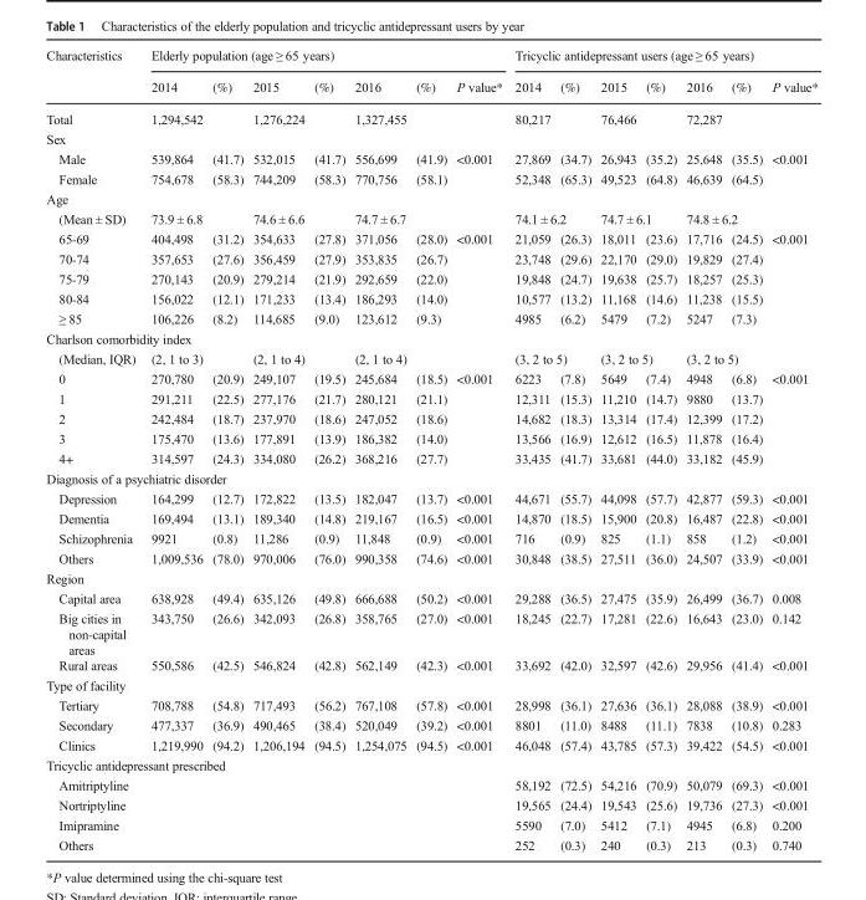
<table><thead><tr><td rowspan="2">Characteristics</td><td colspan="7">Elderly population (age ≥ 65 years)</td><td colspan="7">Tricyclic antidepressant users (age ≥ 65 years)</td></tr><tr><td>2014</td><td>(%)</td><td>2015</td><td>(%)</td><td>2016</td><td>(%)</td><td>P value*</td><td>2014</td><td>(%)</td><td>2015</td><td>(%)</td><td>2016</td><td>(%)</td><td>P value*</td></tr></thead><tbody><tr><td>Total</td><td colspan="2">1,294,542</td><td colspan="2">1,276,224</td><td colspan="2">1,327,455</td><td></td><td colspan="2">80,217</td><td colspan="2">76,466</td><td colspan="2">72,287</td><td></td></tr><tr><td colspan="15">Sex</td></tr><tr><td>Male</td><td>539,864</td><td>(41.7)</td><td>532,015</td><td>(41.7)</td><td>556,699</td><td>(41.9)</td><td>&lt;0.001</td><td>27,869</td><td>(34.7)</td><td>26,943</td><td>(35.2)</td><td>25,648</td><td>(35.5)</td><td>&lt;0.001</td></tr><tr><td>Female</td><td>754,678</td><td>(58.3)</td><td>744,209</td><td>(58.3)</td><td>770,756</td><td>(58.1)</td><td></td><td>52,348</td><td>(65.3)</td><td>49,523</td><td>(64.8)</td><td>46,639</td><td>(64.5)</td><td></td></tr><tr><td colspan="15">Age</td></tr><tr><td>(Mean ± SD)</td><td colspan="2">73.9 ± 6.8</td><td colspan="2">74.6 ± 6.6</td><td colspan="2">74.7 ± 6.7</td><td></td><td colspan="2">74.1 ± 6.2</td><td colspan="2">74.7 ± 6.1</td><td colspan="2">74.8 ± 6.2</td><td></td></tr><tr><td>65-69</td><td>404,498</td><td>(31.2)</td><td>354,633</td><td>(27.8)</td><td>371,056</td><td>(28.0)</td><td>&lt;0.001</td><td>21,059</td><td>(26.3)</td><td>18,011</td><td>(23.6)</td><td>17,716</td><td>(24.5)</td><td>&lt;0.001</td></tr><tr><td>70-74</td><td>357,653</td><td>(27.6)</td><td>356,459</td><td>(27.9)</td><td>353,835</td><td>(26.7)</td><td></td><td>23,748</td><td>(29.6)</td><td>22,170</td><td>(29.0)</td><td>19,829</td><td>(27.4)</td><td></td></tr><tr><td>75-79</td><td>270,143</td><td>(20.9)</td><td>279,214</td><td>(21.9)</td><td>292,659</td><td>(22.0)</td><td></td><td>19,848</td><td>(24.7)</td><td>19,638</td><td>(25.7)</td><td>18,257</td><td>(25.3)</td><td></td></tr><tr><td>80-84</td><td>156,022</td><td>(12.1)</td><td>171,233</td><td>(13.4)</td><td>186,293</td><td>(14.0)</td><td></td><td>10,577</td><td>(13.2)</td><td>11,168</td><td>(14.6)</td><td>11,238</td><td>(15.5)</td><td></td></tr><tr><td>≥ 85</td><td>106,226</td><td>(8.2)</td><td>114,685</td><td>(9.0)</td><td>123,612</td><td>(9.3)</td><td></td><td>4985</td><td>(6.2)</td><td>5479</td><td>(7.2)</td><td>5247</td><td>(7.3)</td><td></td></tr><tr><td colspan="15">Charlson comorbidity index</td></tr><tr><td>(Median, IQR)</td><td colspan="2">(2, 1 to 3)</td><td colspan="2">(2, 1 to 4)</td><td colspan="2">(2, 1 to 4)</td><td></td><td colspan="2">(3, 2 to 5)</td><td colspan="2">(3, 2 to 5)</td><td colspan="2">(3, 2 to 5)</td><td></td></tr><tr><td>0</td><td>270,780</td><td>(20.9)</td><td>249,107</td><td>(19.5)</td><td>245,684</td><td>(18.5)</td><td>&lt;0.001</td><td>6223</td><td>(7.8)</td><td>5649</td><td>(7.4)</td><td>4948</td><td>(6.8)</td><td>&lt;0.001</td></tr><tr><td>1</td><td>291,211</td><td>(22.5)</td><td>277,176</td><td>(21.7)</td><td>280,121</td><td>(21.1)</td><td></td><td>12,311</td><td>(15.3)</td><td>11,210</td><td>(14.7)</td><td>9880</td><td>(13.7)</td><td></td></tr><tr><td>2</td><td>242,484</td><td>(18.7)</td><td>237,970</td><td>(18.6)</td><td>247,052</td><td>(18.6)</td><td></td><td>14,682</td><td>(18.3)</td><td>13,314</td><td>(17.4)</td><td>12,399</td><td>(17.2)</td><td></td></tr><tr><td>3</td><td>175,470</td><td>(13.6)</td><td>177,891</td><td>(13.9)</td><td>186,382</td><td>(14.0)</td><td></td><td>13,566</td><td>(16.9)</td><td>12,612</td><td>(16.5)</td><td>11,878</td><td>(16.4)</td><td></td></tr><tr><td>4+</td><td>314,597</td><td>(24.3)</td><td>334,080</td><td>(26.2)</td><td>368,216</td><td>(27.7)</td><td></td><td>33,435</td><td>(41.7)</td><td>33,681</td><td>(44.0)</td><td>33,182</td><td>(45.9)</td><td></td></tr><tr><td colspan="15">Diagnosis of a psychiatric disorder</td></tr><tr><td>Depression</td><td>164,299</td><td>(12.7)</td><td>172,822</td><td>(13.5)</td><td>182,047</td><td>(13.7)</td><td>&lt;0.001</td><td>44,671</td><td>(55.7)</td><td>44,098</td><td>(57.7)</td><td>42,877</td><td>(59.3)</td><td>&lt;0.001</td></tr><tr><td>Dementia</td><td>169,494</td><td>(13.1)</td><td>189,340</td><td>(14.8)</td><td>219,167</td><td>(16.5)</td><td>&lt;0.001</td><td>14,870</td><td>(18.5)</td><td>15,900</td><td>(20.8)</td><td>16,487</td><td>(22.8)</td><td>&lt;0.001</td></tr><tr><td>Schizophrenia</td><td>9921</td><td>(0.8)</td><td>11,286</td><td>(0.9)</td><td>11,848</td><td>(0.9)</td><td>&lt;0.001</td><td>716</td><td>(0.9)</td><td>825</td><td>(1.1)</td><td>858</td><td>(1.2)</td><td>&lt;0.001</td></tr><tr><td>Others</td><td>1,009,536</td><td>(78.0)</td><td>970,006</td><td>(76.0)</td><td>990,358</td><td>(74.6)</td><td>&lt;0.001</td><td>30,848</td><td>(38.5)</td><td>27,511</td><td>(36.0)</td><td>24,507</td><td>(33.9)</td><td>&lt;0.001</td></tr><tr><td colspan="15">Region</td></tr><tr><td>Capital area</td><td>638,928</td><td>(49.4)</td><td>635,126</td><td>(49.8)</td><td>666,688</td><td>(50.2)</td><td>&lt;0.001</td><td>29,288</td><td>(36.5)</td><td>27,475</td><td>(35.9)</td><td>26,499</td><td>(36.7)</td><td>0.008</td></tr><tr><td>Big cities in non-capital areas</td><td>343,750</td><td>(26.6)</td><td>342,093</td><td>(26.8)</td><td>358,765</td><td>(27.0)</td><td>&lt;0.001</td><td>18,245</td><td>(22.7)</td><td>17,281</td><td>(22.6)</td><td>16,643</td><td>(23.0)</td><td>0.142</td></tr><tr><td>Rural areas</td><td>550,586</td><td>(42.5)</td><td>546,824</td><td>(42.8)</td><td>562,149</td><td>(42.3)</td><td>&lt;0.001</td><td>33,692</td><td>(42.0)</td><td>32,597</td><td>(42.6)</td><td>29,956</td><td>(41.4)</td><td>&lt;0.001</td></tr><tr><td colspan="15">Type of facility</td></tr><tr><td>Tertiary</td><td>708,788</td><td>(54.8)</td><td>717,493</td><td>(56.2)</td><td>767,108</td><td>(57.8)</td><td>&lt;0.001</td><td>28,998</td><td>(36.1)</td><td>27,636</td><td>(36.1)</td><td>28,088</td><td>(38.9)</td><td>&lt;0.001</td></tr><tr><td>Secondary</td><td>477,337</td><td>(36.9)</td><td>490,465</td><td>(38.4)</td><td>520,049</td><td>(39.2)</td><td>&lt;0.001</td><td>8801</td><td>(11.0)</td><td>8488</td><td>(11.1)</td><td>7838</td><td>(10.8)</td><td>0.283</td></tr><tr><td>Clinics</td><td>1,219,990</td><td>(94.2)</td><td>1,206,194</td><td>(94.5)</td><td>1,254,075</td><td>(94.5)</td><td>&lt;0.001</td><td>46,048</td><td>(57.4)</td><td>43,785</td><td>(57.3)</td><td>39,422</td><td>(54.5)</td><td>&lt;0.001</td></tr><tr><td colspan="15">Tricyclic antidepressant prescribed</td></tr><tr><td>Amitriptyline</td><td></td><td></td><td></td><td></td><td></td><td></td><td></td><td>58,192</td><td>(72.5)</td><td>54,216</td><td>(70.9)</td><td>50,079</td><td>(69.3)</td><td>&lt;0.001</td></tr><tr><td>Nortriptyline</td><td></td><td></td><td></td><td></td><td></td><td></td><td></td><td>19,565</td><td>(24.4)</td><td>19,543</td><td>(25.6)</td><td>19,736</td><td>(27.3)</td><td>&lt;0.001</td></tr><tr><td>Imipramine</td><td></td><td></td><td></td><td></td><td></td><td></td><td></td><td>5590</td><td>(7.0)</td><td>5412</td><td>(7.1)</td><td>4945</td><td>(6.8)</td><td>0.200</td></tr><tr><td>Others</td><td></td><td></td><td></td><td></td><td></td><td></td><td></td><td>252</td><td>(0.3)</td><td>240</td><td>(0.3)</td><td>213</td><td>(0.3)</td><td>0.740</td></tr></tbody></table>